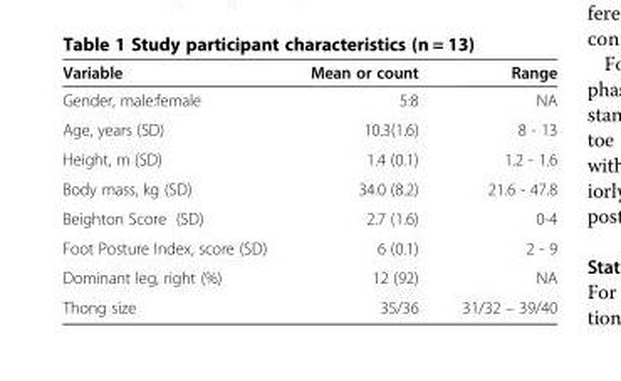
<table><thead><tr><td>Variable</td><td>Mean or count</td><td>Range</td></tr></thead><tbody><tr><td>Gender, male:female</td><td>5:8</td><td>NA</td></tr><tr><td>Age, years (SD)</td><td>10.3(1.6)</td><td>8 - 13</td></tr><tr><td>Height, m (SD)</td><td>1.4 (0.1)</td><td>1.2 - 1.6</td></tr><tr><td>Body mass, kg (SD)</td><td>34.0 (8.2)</td><td>21.6 - 47.8</td></tr><tr><td>Beighton Score (SD)</td><td>2.7 (1.6)</td><td>0-4</td></tr><tr><td>Foot Posture Index, score (SD)</td><td>6 (0.1)</td><td>2 - 9</td></tr><tr><td>Dominant leg, right (%)</td><td>12 (92)</td><td>NA</td></tr><tr><td>Thong size</td><td>35/36</td><td>31/32 – 39/40</td></tr></tbody></table>